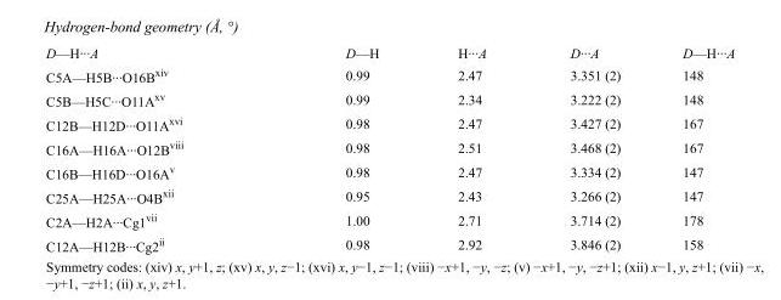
<table><tbody><tr><td>D—H···A</td><td>D—H</td><td>H···A</td><td>D···A</td><td>D—H···A</td></tr><tr><td>C5A—H5B···O16B<sup>xiv</sup></td><td>0.99</td><td>2.47</td><td>3.351 (2)</td><td>148</td></tr><tr><td>C5B—H5C···O11A<sup>xv</sup></td><td>0.99</td><td>2.34</td><td>3.222 (2)</td><td>148</td></tr><tr><td>C12B—H12D···O11A<sup>xvi</sup></td><td>0.98</td><td>2.47</td><td>3.427 (2)</td><td>167</td></tr><tr><td>C16A—H16A···O12B<sup>viii</sup></td><td>0.98</td><td>2.51</td><td>3.468 (2)</td><td>167</td></tr><tr><td>C16B—H16D···O16A<sup>v</sup></td><td>0.98</td><td>2.47</td><td>3.334 (2)</td><td>147</td></tr><tr><td>C25A—H25A···O4B<sup>xii</sup></td><td>0.95</td><td>2.43</td><td>3.266 (2)</td><td>147</td></tr><tr><td>C2A—H2A···Cg1<sup>vii</sup></td><td>1.00</td><td>2.71</td><td>3.714 (2)</td><td>178</td></tr><tr><td>C12A—H12B···Cg2<sup>ii</sup></td><td>0.98</td><td>2.92</td><td>3.846 (2)</td><td>158</td></tr></tbody></table>